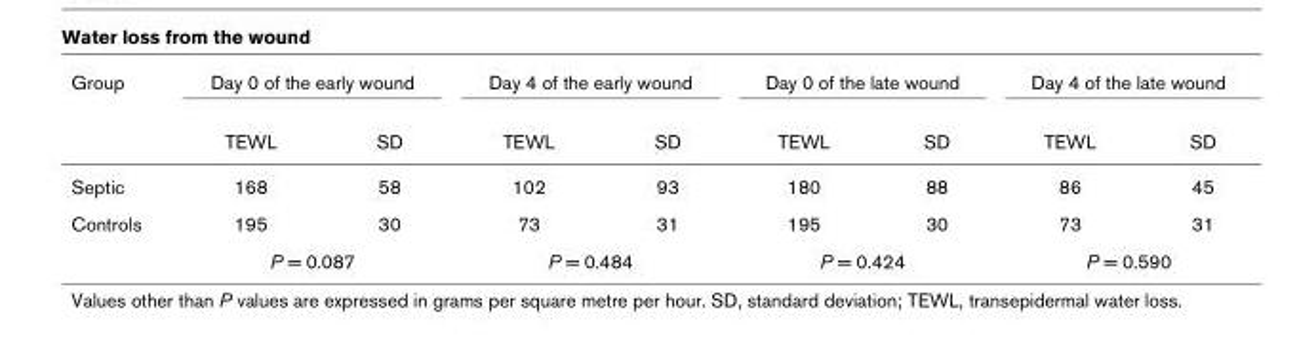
<table><thead><tr><td rowspan="2">Group</td><td colspan="2">Day 0 of the early wound</td><td colspan="2">Day 4 of the early wound</td><td colspan="2">Day 0 of the late wound</td><td colspan="2">Day 4 of the late wound</td></tr><tr><td>TEWL</td><td>SD</td><td>TEWL</td><td>SD</td><td>TEWL</td><td>SD</td><td>TEWL</td><td>SD</td></tr></thead><tbody><tr><td>Septic</td><td>168</td><td>58</td><td>102</td><td>93</td><td>180</td><td>88</td><td>86</td><td>45</td></tr><tr><td rowspan="2">Controls</td><td>195</td><td>30</td><td>73</td><td>31</td><td>195</td><td>30</td><td>73</td><td>31</td></tr><tr><td colspan="2">P = 0.087</td><td colspan="2">P = 0.484</td><td colspan="2">P = 0.424</td><td colspan="2">P = 0.590</td></tr></tbody></table>